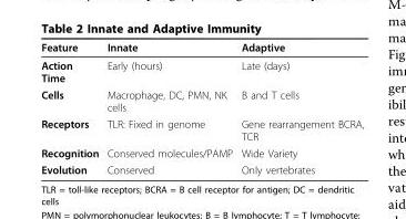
<table><thead><tr><td>Feature</td><td>Innate</td><td>Adaptive</td></tr></thead><tbody><tr><td>Action Time</td><td>Early (hours)</td><td>Late (days)</td></tr><tr><td>Cells</td><td>Macrophage, DC, PMN, NK cells</td><td>B and T cells</td></tr><tr><td>Receptors</td><td>TLR: Fixed in genome</td><td>Gene rearrangement BCRA, TCR</td></tr><tr><td>Recognition</td><td>Conserved molecules/PAMP</td><td>Wide Variety</td></tr><tr><td>Evolution</td><td>Conserved</td><td>Only vertebrates</td></tr></tbody></table>